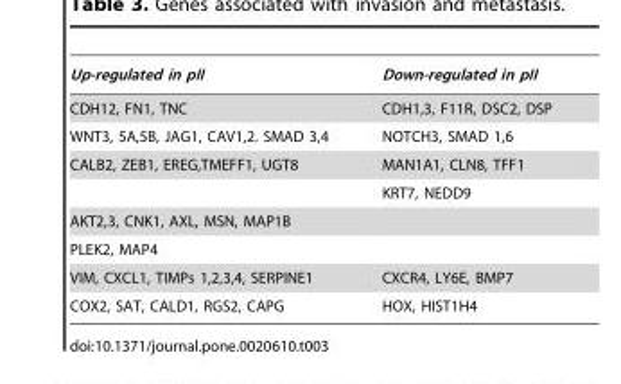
<table><thead><tr><td>Up-regulated in pII</td><td>Down-regulated in pII</td></tr></thead><tbody><tr><td>CDH12, FN1, TNC</td><td>CDH1,3, F11R, DSC2, DSP</td></tr><tr><td>WNT3, 5A,5B, JAG1, CAV1,2. SMAD 3,4</td><td>NOTCH3, SMAD 1,6</td></tr><tr><td rowspan="2">CALB2, ZEB1, EREG,TMEFF1, UGT8</td><td>MAN1A1, CLN8, TFF1</td></tr><tr><td>KRT7, NEDD9</td></tr><tr><td colspan="2">AKT2,3, CNK1, AXL, MSN, MAP1B</td></tr><tr><td colspan="2">PLEK2, MAP4</td></tr><tr><td>VIM, CXCL1, TIMPs 1,2,3,4, SERPINE1</td><td>CXCR4, LY6E, BMP7</td></tr><tr><td>COX2, SAT, CALD1, RGS2, CAPG</td><td>HOX, HIST1H4</td></tr></tbody></table>